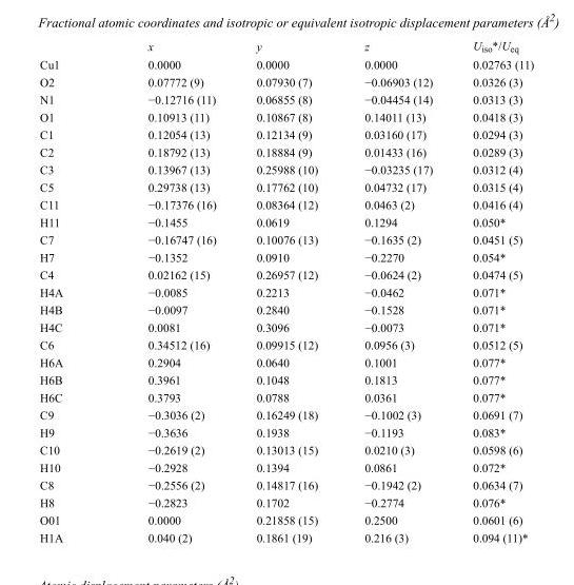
<table><thead><tr><td></td><td>x</td><td>y</td><td>z</td><td>U<sub>iso</sub>*/U<sub>eq</sub></td></tr></thead><tbody><tr><td>Cu1</td><td>0.0000</td><td>0.0000</td><td>0.0000</td><td>0.02763 (11)</td></tr><tr><td>O2</td><td>0.07772 (9)</td><td>0.07930 (7)</td><td>−0.06903 (12)</td><td>0.0326 (3)</td></tr><tr><td>N1</td><td>−0.12716 (11)</td><td>0.06855 (8)</td><td>−0.04454 (14)</td><td>0.0313 (3)</td></tr><tr><td>O1</td><td>0.10913 (11)</td><td>0.10867 (8)</td><td>0.14011 (13)</td><td>0.0418 (3)</td></tr><tr><td>C1</td><td>0.12054 (13)</td><td>0.12134 (9)</td><td>0.03160 (17)</td><td>0.0294 (3)</td></tr><tr><td>C2</td><td>0.18792 (13)</td><td>0.18884 (9)</td><td>0.01433 (16)</td><td>0.0289 (3)</td></tr><tr><td>C3</td><td>0.13967 (13)</td><td>0.25988 (10)</td><td>−0.03235 (17)</td><td>0.0312 (4)</td></tr><tr><td>C5</td><td>0.29738 (13)</td><td>0.17762 (10)</td><td>0.04732 (17)</td><td>0.0315 (4)</td></tr><tr><td>C11</td><td>−0.17376 (16)</td><td>0.08364 (12)</td><td>0.0463 (2)</td><td>0.0416 (4)</td></tr><tr><td>H11</td><td>−0.1455</td><td>0.0619</td><td>0.1294</td><td>0.050*</td></tr><tr><td>C7</td><td>−0.16747 (16)</td><td>0.10076 (13)</td><td>−0.1635 (2)</td><td>0.0451 (5)</td></tr><tr><td>H7</td><td>−0.1352</td><td>0.0910</td><td>−0.2270</td><td>0.054*</td></tr><tr><td>C4</td><td>0.02162 (15)</td><td>0.26957 (12)</td><td>−0.0624 (2)</td><td>0.0474 (5)</td></tr><tr><td>H4A</td><td>−0.0085</td><td>0.2213</td><td>−0.0462</td><td>0.071*</td></tr><tr><td>H4B</td><td>−0.0097</td><td>0.2840</td><td>−0.1528</td><td>0.071*</td></tr><tr><td>H4C</td><td>0.0081</td><td>0.3096</td><td>−0.0073</td><td>0.071*</td></tr><tr><td>C6</td><td>0.34512 (16)</td><td>0.09915 (12)</td><td>0.0956 (3)</td><td>0.0512 (5)</td></tr><tr><td>H6A</td><td>0.2904</td><td>0.0640</td><td>0.1001</td><td>0.077*</td></tr><tr><td>H6B</td><td>0.3961</td><td>0.1048</td><td>0.1813</td><td>0.077*</td></tr><tr><td>H6C</td><td>0.3793</td><td>0.0788</td><td>0.0361</td><td>0.077*</td></tr><tr><td>C9</td><td>−0.3036 (2)</td><td>0.16249 (18)</td><td>−0.1002 (3)</td><td>0.0691 (7)</td></tr><tr><td>H9</td><td>−0.3636</td><td>0.1938</td><td>−0.1193</td><td>0.083*</td></tr><tr><td>C10</td><td>−0.2619 (2)</td><td>0.13013 (15)</td><td>0.0210 (3)</td><td>0.0598 (6)</td></tr><tr><td>H10</td><td>−0.2928</td><td>0.1394</td><td>0.0861</td><td>0.072*</td></tr><tr><td>C8</td><td>−0.2556 (2)</td><td>0.14817 (16)</td><td>−0.1942 (2)</td><td>0.0634 (7)</td></tr><tr><td>H8</td><td>−0.2823</td><td>0.1702</td><td>−0.2774</td><td>0.076*</td></tr><tr><td>O01</td><td>0.0000</td><td>0.21858 (15)</td><td>0.2500</td><td>0.0601 (6)</td></tr><tr><td>H1A</td><td>0.040 (2)</td><td>0.1861 (19)</td><td>0.216 (3)</td><td>0.094 (11)*</td></tr></tbody></table>